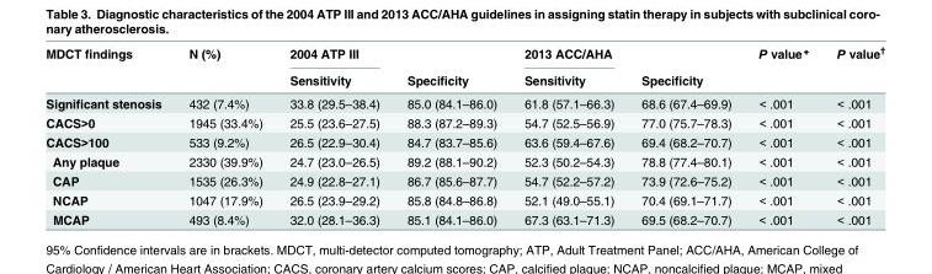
<table><thead><tr><td rowspan="2">MDCT findings</td><td rowspan="2">N (%)</td><td rowspan="2">2004 ATP III Sensitivity</td><td rowspan="2">Specificity</td><td rowspan="2">2013 ACC/AHA Sensitivity</td><td rowspan="2">Specificity</td><td rowspan="2">P value*</td><td rowspan="2">P value<sup>†</sup></td></tr><tr></tr></thead><tbody><tr><td>Significant stenosis</td><td>432 (7.4%)</td><td>33.8 (29.5–38.4)</td><td>85.0 (84.1–86.0)</td><td>61.8 (57.1–66.3)</td><td>68.6 (67.4–69.9)</td><td>&lt; .001</td><td>&lt; .001</td></tr><tr><td>CACS&gt;0</td><td>1945 (33.4%)</td><td>25.5 (23.6–27.5)</td><td>88.3 (87.2–89.3)</td><td>54.7 (52.5–56.9)</td><td>77.0 (75.7–78.3)</td><td>&lt; .001</td><td>&lt; .001</td></tr><tr><td>CACS&gt;100</td><td>533 (9.2%)</td><td>26.5 (22.9–30.4)</td><td>84.7 (83.7–85.6)</td><td>63.6 (59.4–67.6)</td><td>69.4 (68.2–70.7)</td><td>&lt; .001</td><td>&lt; .001</td></tr><tr><td>Any plaque</td><td>2330 (39.9%)</td><td>24.7 (23.0–26.5)</td><td>89.2 (88.1–90.2)</td><td>52.3 (50.2–54.3)</td><td>78.8 (77.4–80.1)</td><td>&lt; .001</td><td>&lt; .001</td></tr><tr><td>CAP</td><td>1535 (26.3%)</td><td>24.9 (22.8–27.1)</td><td>86.7 (85.6–87.7)</td><td>54.7 (52.2–57.2)</td><td>73.9 (72.6–75.2)</td><td>&lt; .001</td><td>&lt; .001</td></tr><tr><td>NCAP</td><td>1047 (17.9%)</td><td>26.5 (23.9–29.2)</td><td>85.8 (84.8–86.8)</td><td>52.1 (49.0–55.1)</td><td>70.4 (69.1–71.7)</td><td>&lt; .001</td><td>&lt; .001</td></tr><tr><td>MCAP</td><td>493 (8.4%)</td><td>32.0 (28.1–36.3)</td><td>85.1 (84.1–86.0)</td><td>67.3 (63.1–71.3)</td><td>69.5 (68.2–70.7)</td><td>&lt; .001</td><td>&lt; .001</td></tr></tbody></table>